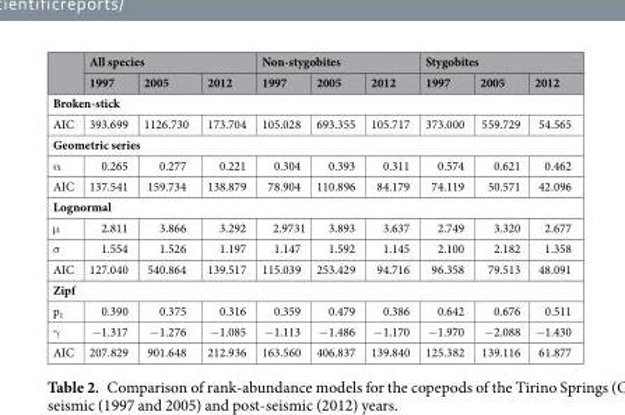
<table><thead><tr><td rowspan="2"></td><td colspan="3">All species</td><td colspan="3">Non-stygobites</td><td colspan="3">Stygobites</td></tr><tr><td>1997</td><td>2005</td><td>2012</td><td>1997</td><td>2005</td><td>2012</td><td>1997</td><td>2005</td><td>2012</td></tr></thead><tbody><tr><td colspan="10">Broken-stick</td></tr><tr><td>AIC</td><td>393.699</td><td>1126.730</td><td>173.704</td><td>105.028</td><td>693.355</td><td>105.717</td><td>373.000</td><td>559.729</td><td>54.565</td></tr><tr><td colspan="10">Geometric series</td></tr><tr><td>α</td><td>0.265</td><td>0.277</td><td>0.221</td><td>0.304</td><td>0.393</td><td>0.311</td><td>0.574</td><td>0.621</td><td>0.462</td></tr><tr><td>AIC</td><td>137.541</td><td>159.734</td><td>138.879</td><td>78.904</td><td>110.896</td><td>84.179</td><td>74.119</td><td>50.571</td><td>42.096</td></tr><tr><td colspan="10">Lognormal</td></tr><tr><td>μ</td><td>2.811</td><td>3.866</td><td>3.292</td><td>2.9731</td><td>3.893</td><td>3.637</td><td>2.749</td><td>3.320</td><td>2.677</td></tr><tr><td>σ</td><td>1.554</td><td>1.526</td><td>1.197</td><td>1.147</td><td>1.592</td><td>1.145</td><td>2.100</td><td>2.182</td><td>1.358</td></tr><tr><td>AIC</td><td>127.040</td><td>540.864</td><td>139.517</td><td>115.039</td><td>253.429</td><td>94.716</td><td>96.358</td><td>79.513</td><td>48.091</td></tr><tr><td colspan="10">Zipf</td></tr><tr><td>p<sub>1</sub></td><td>0.390</td><td>0.375</td><td>0.316</td><td>0.359</td><td>0.479</td><td>0.386</td><td>0.642</td><td>0.676</td><td>0.511</td></tr><tr><td>γ</td><td>−1.317</td><td>−1.276</td><td>−1.085</td><td>−1.113</td><td>−1.486</td><td>−1.170</td><td>−1.970</td><td>−2.088</td><td>−1.430</td></tr><tr><td>AIC</td><td>207.829</td><td>901.648</td><td>212.936</td><td>163.560</td><td>406.837</td><td>139.840</td><td>125.382</td><td>139.116</td><td>61.877</td></tr></tbody></table>